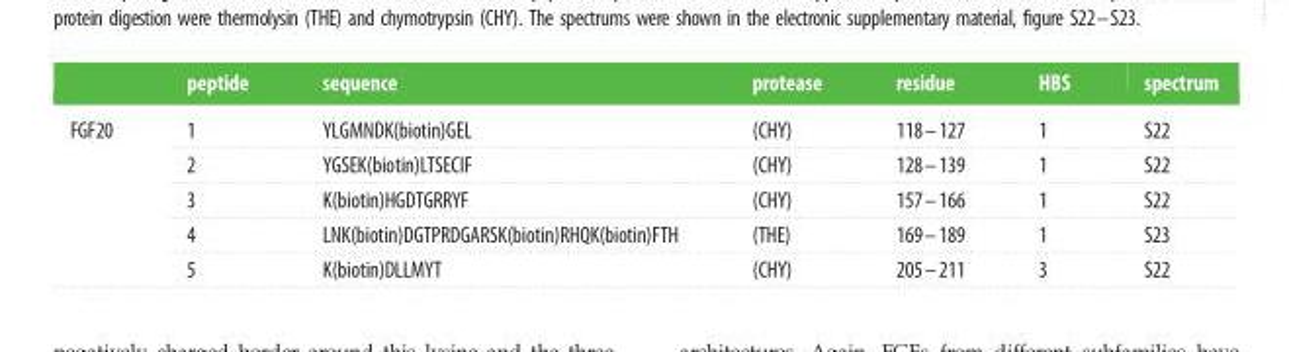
<table><thead><tr><td></td><td>peptide</td><td>sequence</td><td>protease</td><td>residue</td><td>HBS</td><td>spectrum</td></tr></thead><tbody><tr><td rowspan="5">FGF20</td><td>1</td><td>YLGMNDK(biotin)GEL</td><td>(CHY)</td><td>118–127</td><td>1</td><td>S22</td></tr><tr><td>2</td><td>YGSEK(biotin)LTSECIF</td><td>(CHY)</td><td>128–139</td><td>1</td><td>S22</td></tr><tr><td>3</td><td>K(biotin)HGDTGRRYF</td><td>(CHY)</td><td>157–166</td><td>1</td><td>S22</td></tr><tr><td>4</td><td>LNK(biotin)DGTPRDGARSK(biotin)RHQK(biotin)FTH</td><td>(THE)</td><td>169–189</td><td>1</td><td>S23</td></tr><tr><td>5</td><td>K(biotin)DLLMYT</td><td>(CHY)</td><td>205–211</td><td>3</td><td>S22</td></tr></tbody></table>